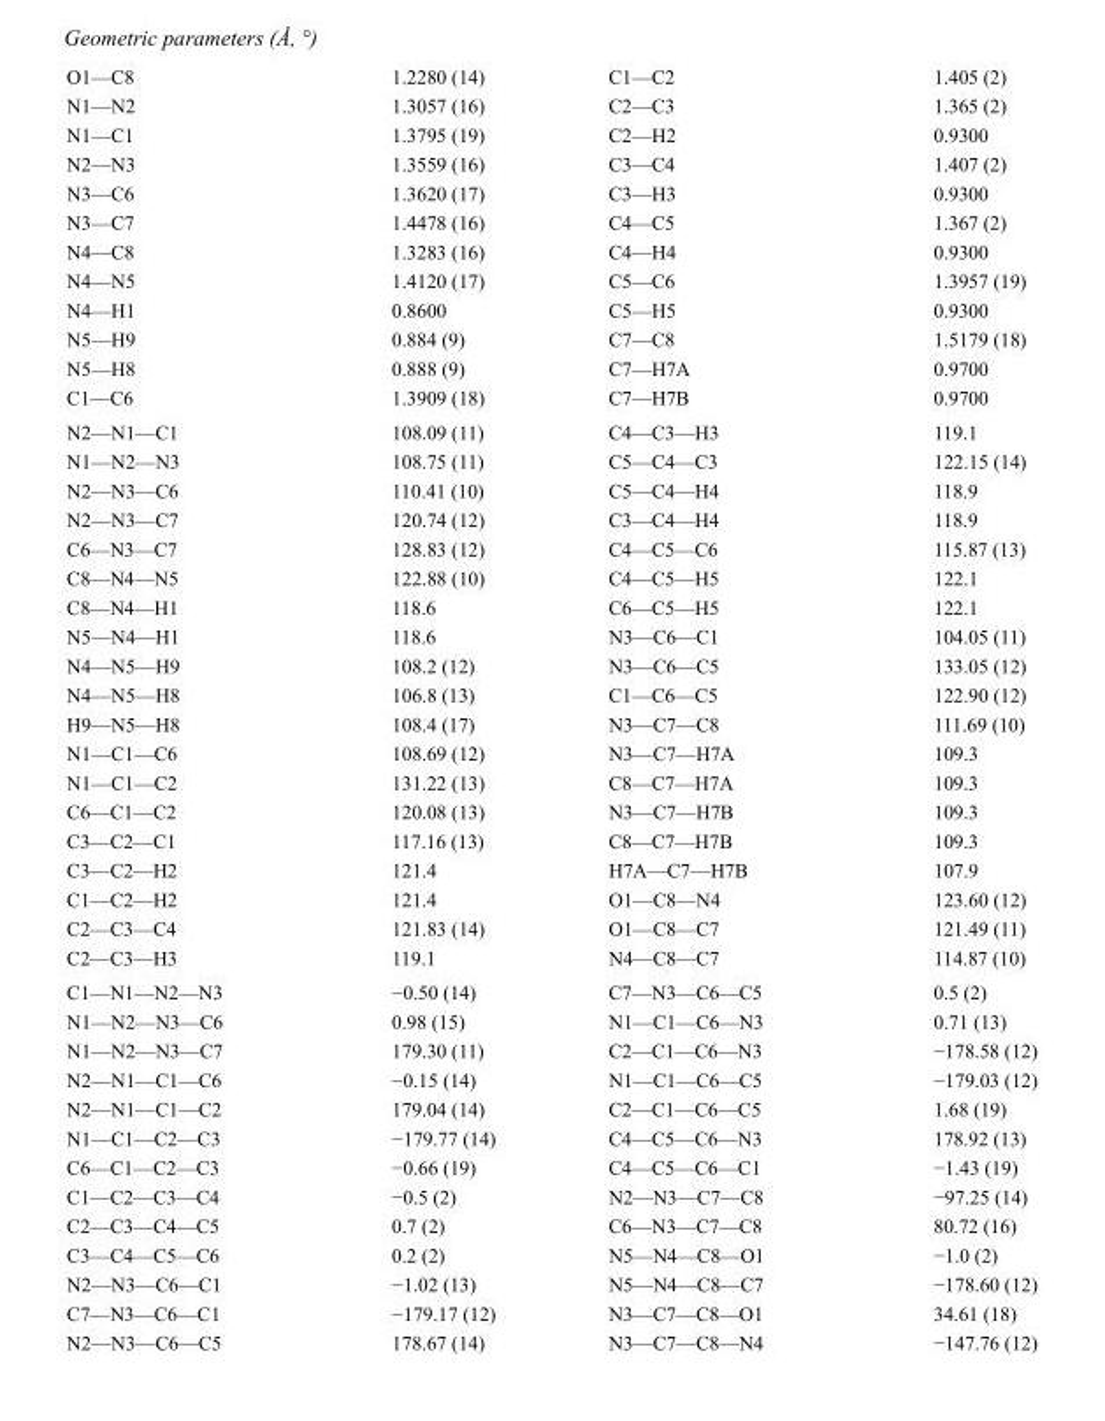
<table><tbody><tr><td>O1—C8</td><td>1.2280 (14)</td><td>C1—C2</td><td>1.405 (2)</td></tr><tr><td>N1—N2</td><td>1.3057 (16)</td><td>C2—C3</td><td>1.365 (2)</td></tr><tr><td>N1—C1</td><td>1.3795 (19)</td><td>C2—H2</td><td>0.9300</td></tr><tr><td>N2—N3</td><td>1.3559 (16)</td><td>C3—C4</td><td>1.407 (2)</td></tr><tr><td>N3—C6</td><td>1.3620 (17)</td><td>C3—H3</td><td>0.9300</td></tr><tr><td>N3—C7</td><td>1.4478 (16)</td><td>C4—C5</td><td>1.367 (2)</td></tr><tr><td>N4—C8</td><td>1.3283 (16)</td><td>C4—H4</td><td>0.9300</td></tr><tr><td>N4—N5</td><td>1.4120 (17)</td><td>C5—C6</td><td>1.3957 (19)</td></tr><tr><td>N4—H1</td><td>0.8600</td><td>C5—H5</td><td>0.9300</td></tr><tr><td>N5—H9</td><td>0.884 (9)</td><td>C7—C8</td><td>1.5179 (18)</td></tr><tr><td>N5—H8</td><td>0.888 (9)</td><td>C7—H7A</td><td>0.9700</td></tr><tr><td>C1—C6</td><td>1.3909 (18)</td><td>C7—H7B</td><td>0.9700</td></tr><tr><td>N2—N1—C1</td><td>108.09 (11)</td><td>C4—C3—H3</td><td>119.1</td></tr><tr><td>N1—N2—N3</td><td>108.75 (11)</td><td>C5—C4—C3</td><td>122.15 (14)</td></tr><tr><td>N2—N3—C6</td><td>110.41 (10)</td><td>C5—C4—H4</td><td>118.9</td></tr><tr><td>N2—N3—C7</td><td>120.74 (12)</td><td>C3—C4—H4</td><td>118.9</td></tr><tr><td>C6—N3—C7</td><td>128.83 (12)</td><td>C4—C5—C6</td><td>115.87 (13)</td></tr><tr><td>C8—N4—N5</td><td>122.88 (10)</td><td>C4—C5—H5</td><td>122.1</td></tr><tr><td>C8—N4—H1</td><td>118.6</td><td>C6—C5—H5</td><td>122.1</td></tr><tr><td>N5—N4—H1</td><td>118.6</td><td>N3—C6—C1</td><td>104.05 (11)</td></tr><tr><td>N4—N5—H9</td><td>108.2 (12)</td><td>N3—C6—C5</td><td>133.05 (12)</td></tr><tr><td>N4—N5—H8</td><td>106.8 (13)</td><td>C1—C6—C5</td><td>122.90 (12)</td></tr><tr><td>H9—N5—H8</td><td>108.4 (17)</td><td>N3—C7—C8</td><td>111.69 (10)</td></tr><tr><td>N1—C1—C6</td><td>108.69 (12)</td><td>N3—C7—H7A</td><td>109.3</td></tr><tr><td>N1—C1—C2</td><td>131.22 (13)</td><td>C8—C7—H7A</td><td>109.3</td></tr><tr><td>C6—C1—C2</td><td>120.08 (13)</td><td>N3—C7—H7B</td><td>109.3</td></tr><tr><td>C3—C2—C1</td><td>117.16 (13)</td><td>C8—C7—H7B</td><td>109.3</td></tr><tr><td>C3—C2—H2</td><td>121.4</td><td>H7A—C7—H7B</td><td>107.9</td></tr><tr><td>C1—C2—H2</td><td>121.4</td><td>O1—C8—N4</td><td>123.60 (12)</td></tr><tr><td>C2—C3—C4</td><td>121.83 (14)</td><td>O1—C8—C7</td><td>121.49 (11)</td></tr><tr><td>C2—C3—H3</td><td>119.1</td><td>N4—C8—C7</td><td>114.87 (10)</td></tr><tr><td>C1—N1—N2—N3</td><td>−0.50 (14)</td><td>C7—N3—C6—C5</td><td>0.5 (2)</td></tr><tr><td>N1—N2—N3—C6</td><td>0.98 (15)</td><td>N1—C1—C6—N3</td><td>0.71 (13)</td></tr><tr><td>N1—N2—N3—C7</td><td>179.30 (11)</td><td>C2—C1—C6—N3</td><td>−178.58 (12)</td></tr><tr><td>N2—N1—C1—C6</td><td>−0.15 (14)</td><td>N1—C1—C6—C5</td><td>−179.03 (12)</td></tr><tr><td>N2—N1—C1—C2</td><td>179.04 (14)</td><td>C2—C1—C6—C5</td><td>1.68 (19)</td></tr><tr><td>N1—C1—C2—C3</td><td>−179.77 (14)</td><td>C4—C5—C6—N3</td><td>178.92 (13)</td></tr><tr><td>C6—C1—C2—C3</td><td>−0.66 (19)</td><td>C4—C5—C6—C1</td><td>−1.43 (19)</td></tr><tr><td>C1—C2—C3—C4</td><td>−0.5 (2)</td><td>N2—N3—C7—C8</td><td>−97.25 (14)</td></tr><tr><td>C2—C3—C4—C5</td><td>0.7 (2)</td><td>C6—N3—C7—C8</td><td>80.72 (16)</td></tr><tr><td>C3—C4—C5—C6</td><td>0.2 (2)</td><td>N5—N4—C8—O1</td><td>−1.0 (2)</td></tr><tr><td>N2—N3—C6—C1</td><td>−1.02 (13)</td><td>N5—N4—C8—C7</td><td>−178.60 (12)</td></tr><tr><td>C7—N3—C6—C1</td><td>−179.17 (12)</td><td>N3—C7—C8—O1</td><td>34.61 (18)</td></tr><tr><td>N2—N3—C6—C5</td><td>178.67 (14)</td><td>N3—C7—C8—N4</td><td>−147.76 (12)</td></tr></tbody></table>